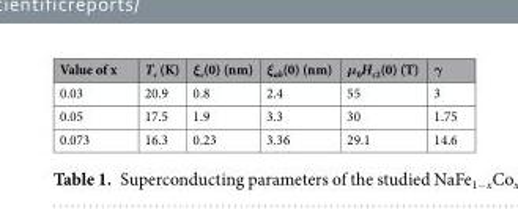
<table><thead><tr><td>Value of x</td><td>T<sub>c</sub> (K)</td><td>ξ<sub>c</sub>(0) (nm)</td><td>ξ<sub>ab</sub>(0) (nm)</td><td>μ<sub>0</sub>H<sub>c2</sub>(0) (T)</td><td>γ</td></tr></thead><tbody><tr><td>0.03</td><td>20.9</td><td>0.8</td><td>2.4</td><td>55</td><td>3</td></tr><tr><td>0.05</td><td>17.5</td><td>1.9</td><td>3.3</td><td>30</td><td>1.75</td></tr><tr><td>0.073</td><td>16.3</td><td>0.23</td><td>3.36</td><td>29.1</td><td>14.6</td></tr></tbody></table>